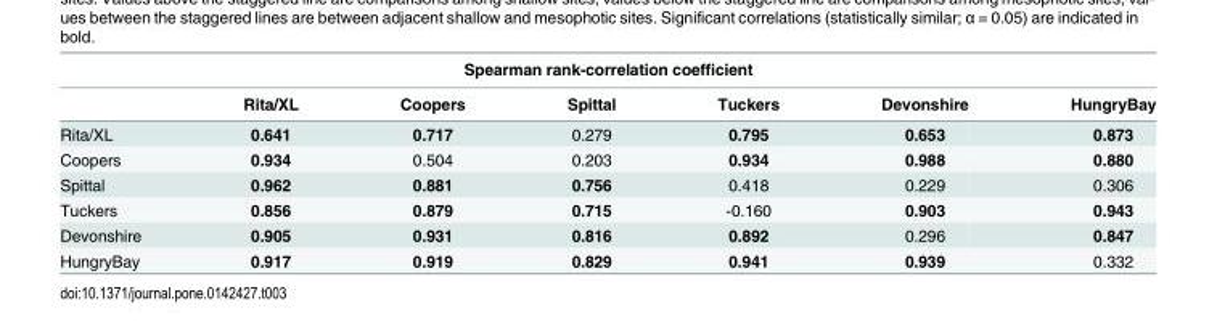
<table><thead><tr><td colspan="7">Spearman rank-correlation coefficient</td></tr><tr><td></td><td>Rita/XL</td><td>Coopers</td><td>Spittal</td><td>Tuckers</td><td>Devonshire</td><td>HungryBay</td></tr></thead><tbody><tr><td>Rita/XL</td><td>0.641</td><td>0.717</td><td>0.279</td><td>0.795</td><td>0.653</td><td>0.873</td></tr><tr><td>Coopers</td><td>0.934</td><td>0.504</td><td>0.203</td><td>0.934</td><td>0.988</td><td>0.880</td></tr><tr><td>Spittal</td><td>0.962</td><td>0.881</td><td>0.756</td><td>0.418</td><td>0.229</td><td>0.306</td></tr><tr><td>Tuckers</td><td>0.856</td><td>0.879</td><td>0.715</td><td>-0.160</td><td>0.903</td><td>0.943</td></tr><tr><td>Devonshire</td><td>0.905</td><td>0.931</td><td>0.816</td><td>0.892</td><td>0.296</td><td>0.847</td></tr><tr><td>HungryBay</td><td>0.917</td><td>0.919</td><td>0.829</td><td>0.941</td><td>0.939</td><td>0.332</td></tr></tbody></table>